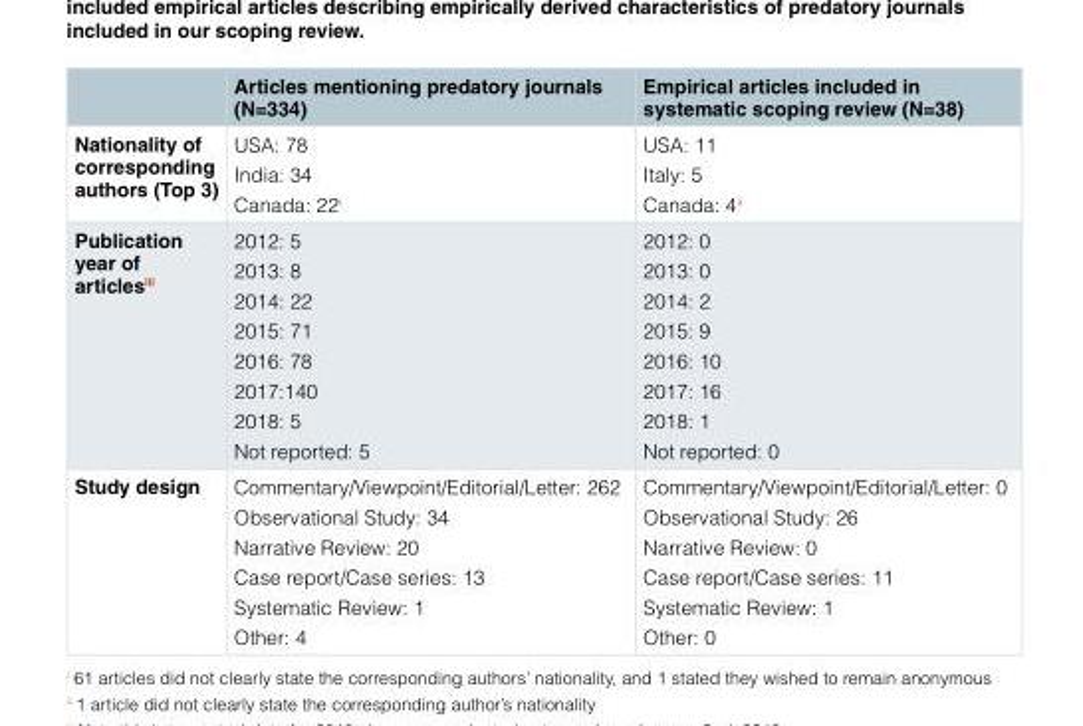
<table><thead><tr><td></td><td>Articles mentioning predatory journals (N=334)</td><td>Empirical articles included in systematic scoping review (N=38)</td></tr></thead><tbody><tr><td>Nationality of corresponding authors (Top 3)</td><td>USA: 78 India: 34 Canada: 22<sup>i</sup></td><td>USA: 11 Italy: 5 Canada: 4<sup>ii</sup></td></tr><tr><td>Publication year of articles<sup>iii</sup></td><td>2012: 5 2013: 8 2014: 22 2015: 71 2016: 78 2017:140 2018: 5 Not reported: 5</td><td>2012: 0 2013: 0 2014: 2 2015: 9 2016: 10 2017: 16 2018: 1 Not reported: 0</td></tr><tr><td>Study design</td><td>Commentary/Viewpoint/Editorial/Letter: 262 Observational Study: 34 Narrative Review: 20 Case report/Case series: 13 Systematic Review: 1 Other: 4</td><td>Commentary/Viewpoint/Editorial/Letter: 0 Observational Study: 26 Narrative Review: 0 Case report/Case series: 11 Systematic Review: 1 Other: 0</td></tr></tbody></table>